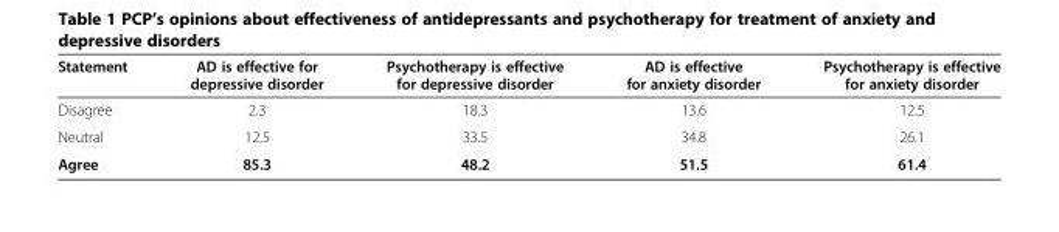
<table><thead><tr><td>Statement</td><td>AD is effective for depressive disorder</td><td>Psychotherapy is effective for depressive disorder</td><td>AD is effective for anxiety disorder</td><td>Psychotherapy is effective for anxiety disorder</td></tr></thead><tbody><tr><td>Disagree</td><td>2.3</td><td>18.3</td><td>13.6</td><td>12.5</td></tr><tr><td>Neutral</td><td>12.5</td><td>33.5</td><td>34.8</td><td>26.1</td></tr><tr><td>Agree</td><td>85.3</td><td>48.2</td><td>51.5</td><td>61.4</td></tr></tbody></table>